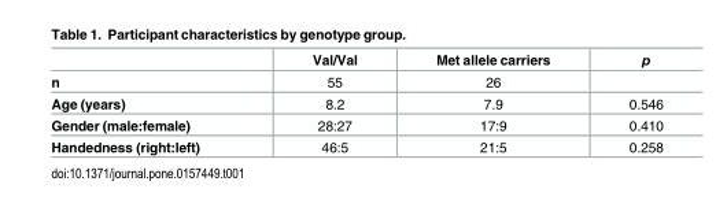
<table><thead><tr><td></td><td>Val/Val</td><td>Met allele carriers</td><td>p</td></tr></thead><tbody><tr><td>n</td><td>55</td><td>26</td><td></td></tr><tr><td>Age (years)</td><td>8.2</td><td>7.9</td><td>0.546</td></tr><tr><td>Gender (male:female)</td><td>28:27</td><td>17:9</td><td>0.410</td></tr><tr><td>Handedness (right:left)</td><td>46:5</td><td>21:5</td><td>0.258</td></tr></tbody></table>